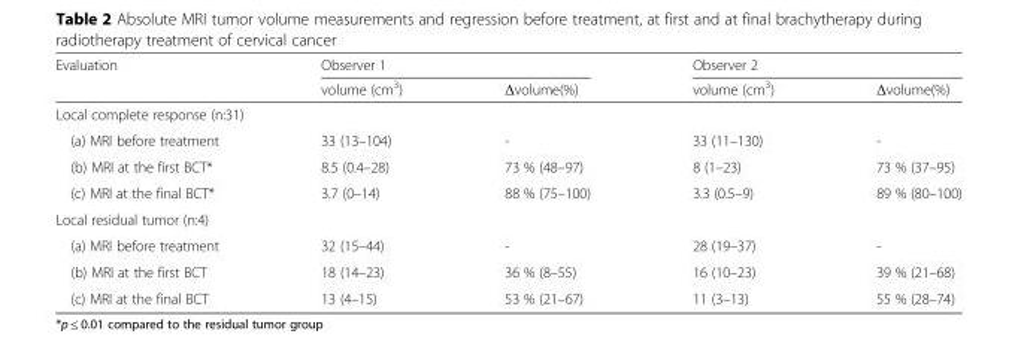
<table><thead><tr><td rowspan="2">Evaluation</td><td colspan="2">Observer 1</td><td colspan="2">Observer 2</td></tr><tr><td>volume (cm<sup>3</sup>)</td><td>Δvolume(%)</td><td>volume (cm<sup>3</sup>)</td><td>Δvolume(%)</td></tr></thead><tbody><tr><td colspan="5">Local complete response (n:31)</td></tr><tr><td>(a) MRI before treatment</td><td>33 (13–104)</td><td>-</td><td>33 (11–130)</td><td>-</td></tr><tr><td>(b) MRI at the first BCT*</td><td>8.5 (0.4–28)</td><td>73 % (48–97)</td><td>8 (1–23)</td><td>73 % (37–95)</td></tr><tr><td>(c) MRI at the final BCT*</td><td>3.7 (0–14)</td><td>88 % (75–100)</td><td>3.3 (0.5–9)</td><td>89 % (80–100)</td></tr><tr><td colspan="5">Local residual tumor (n:4)</td></tr><tr><td>(a) MRI before treatment</td><td>32 (15–44)</td><td>-</td><td>28 (19–37)</td><td>-</td></tr><tr><td>(b) MRI at the first BCT</td><td>18 (14–23)</td><td>36 % (8–55)</td><td>16 (10–23)</td><td>39 % (21–68)</td></tr><tr><td>(c) MRI at the final BCT</td><td>13 (4–15)</td><td>53 % (21–67)</td><td>11 (3–13)</td><td>55 % (28–74)</td></tr></tbody></table>